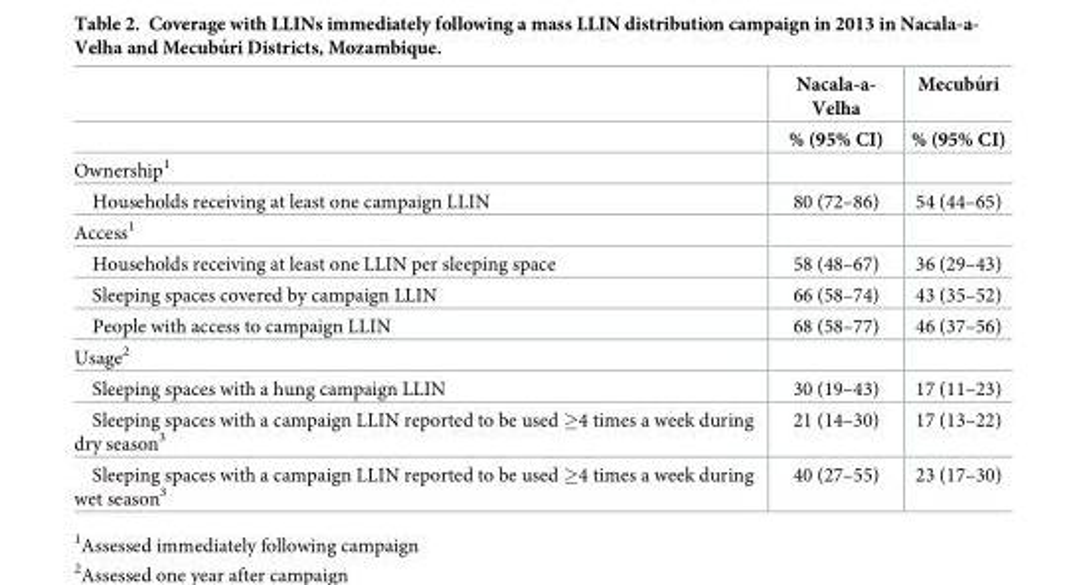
<table><thead><tr><td rowspan="2"></td><td rowspan="2">Nacala-a- Velha % (95% CI)</td><td rowspan="2">Mecubu´ri % (95% CI)</td></tr><tr></tr></thead><tbody><tr><td colspan="3">Ownership<sup>1</sup></td></tr><tr><td>Households receiving at least one campaign LLIN</td><td>80 (72–86)</td><td>54 (44–65)</td></tr><tr><td colspan="3">Access<sup>1</sup></td></tr><tr><td>Households receiving at least one LLIN per sleeping space</td><td>58 (48–67)</td><td>36 (29–43)</td></tr><tr><td>Sleeping spaces covered by campaign LLIN</td><td>66 (58–74)</td><td>43 (35–52)</td></tr><tr><td>People with access to campaign LLIN</td><td>68 (58–77)</td><td>46 (37–56)</td></tr><tr><td colspan="3">Usage<sup>2</sup></td></tr><tr><td>Sleeping spaces with a hung campaign LLIN</td><td>30 (19–43)</td><td>17 (11–23)</td></tr><tr><td>Sleeping spaces with a campaign LLIN reported to be used ≥4 times a week during dry season<sup>3</sup></td><td>21 (14–30)</td><td>17 (13–22)</td></tr><tr><td>Sleeping spaces with a campaign LLIN reported to be used ≥4 times a week during wet season<sup>3</sup></td><td>40 (27–55)</td><td>23 (17–30)</td></tr></tbody></table>